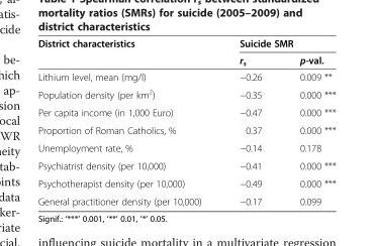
<table><thead><tr><td rowspan="2">District characteristics</td><td colspan="2">Suicide SMR</td></tr><tr><td>r<sub>s</sub></td><td>p-val.</td></tr></thead><tbody><tr><td>Lithium level, mean (mg/l)</td><td>−0.26</td><td>0.009 **</td></tr><tr><td>Population density (per km<sup>2</sup>)</td><td>−0.35</td><td>0.000 ***</td></tr><tr><td>Per capita income (in 1,000 Euro)</td><td>−0.47</td><td>0.000 ***</td></tr><tr><td>Proportion of Roman Catholics, %</td><td>0.37</td><td>0.000 ***</td></tr><tr><td>Unemployment rate, %</td><td>−0.14</td><td>0.178</td></tr><tr><td>Psychiatrist density (per 10,000)</td><td>−0.41</td><td>0.000 ***</td></tr><tr><td>Psychotherapist density (per 10,000)</td><td>−0.49</td><td>0.000 ***</td></tr><tr><td>General practitioner density (per 10,000)</td><td>−0.17</td><td>0.099</td></tr></tbody></table>